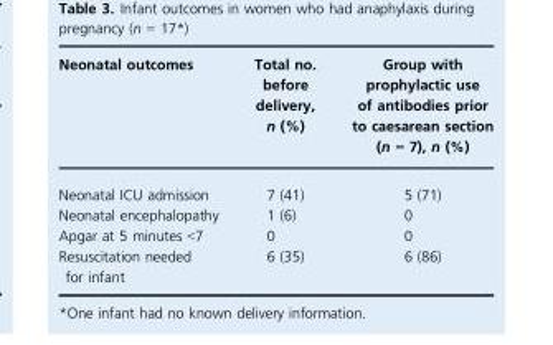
<table><thead><tr><td>Neonatal outcomes</td><td>Total no. before delivery, n (%)</td><td>Group with prophylactic use of antibodies prior to caesarean section (n = 7), n (%)</td></tr></thead><tbody><tr><td>Neonatal ICU admission</td><td>7 (41)</td><td>5 (71)</td></tr><tr><td>Neonatal encephalopathy</td><td>1 (6)</td><td>0</td></tr><tr><td>Apgar at 5 minutes &lt;7</td><td>0</td><td>0</td></tr><tr><td>Resuscitation needed for infant</td><td>6 (35)</td><td>6 (86)</td></tr></tbody></table>